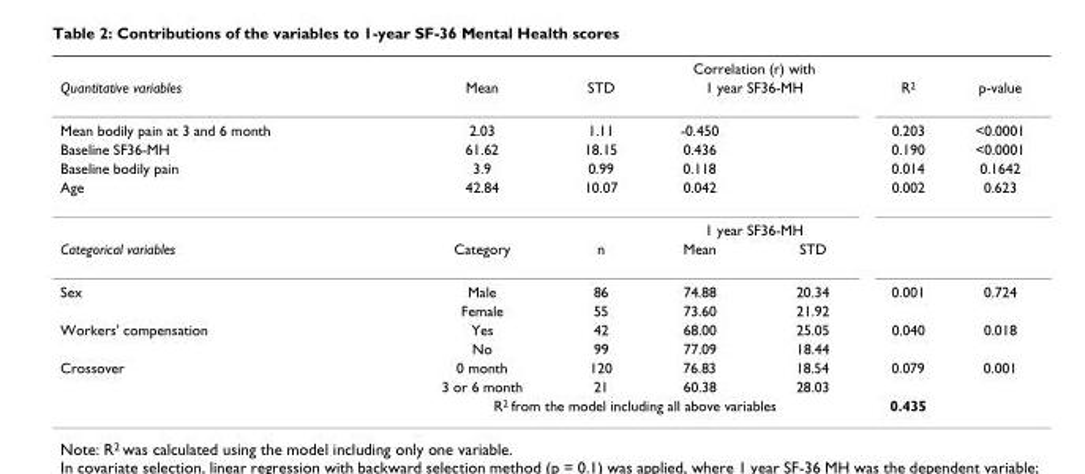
<table><thead><tr><td rowspan="3">Quantitative variables Mean bodily pain at 3 and 6 month</td><td rowspan="3">Mean 2.03</td><td rowspan="3">STD 1.11</td><td rowspan="2" colspan="2">Correlation (r) with 1 year SF36-MH</td><td rowspan="3">R<sup>2</sup> 0.203</td><td rowspan="3">p-value &lt;0.0001</td></tr><tr></tr><tr><td>-0.450</td><td></td></tr></thead><tbody><tr><td>Baseline SF36-MH</td><td>61.62</td><td>18.15</td><td>0.436</td><td></td><td>0.190</td><td>&lt;0.0001</td></tr><tr><td>Baseline bodily pain</td><td>3.9</td><td>0.99</td><td>0.118</td><td></td><td>0.014</td><td>0.1642</td></tr><tr><td rowspan="2">Age</td><td>42.84</td><td>10.07</td><td>0.042</td><td></td><td>0.002</td><td>0.623</td></tr><tr><td></td><td></td><td colspan="2">1 year SF36-MH</td><td></td><td></td></tr><tr><td>Categorical variables</td><td>Category</td><td>n</td><td>Mean</td><td>STD</td><td></td><td></td></tr><tr><td rowspan="2">Sex</td><td>Male</td><td>86</td><td>74.88</td><td>20.34</td><td>0.001</td><td>0.724</td></tr><tr><td>Female</td><td>55</td><td>73.60</td><td>21.92</td><td></td><td></td></tr><tr><td rowspan="2">Workers&#x27; compensation</td><td>Yes</td><td>42</td><td>68.00</td><td>25.05</td><td>0.040</td><td>0.018</td></tr><tr><td>No</td><td>99</td><td>77.09</td><td>18.44</td><td></td><td></td></tr><tr><td rowspan="3">Crossover</td><td>0 month</td><td>120</td><td>76.83</td><td>18.54</td><td>0.079</td><td>0.001</td></tr><tr><td>3 or 6 month</td><td>21</td><td>60.38</td><td>28.03</td><td></td><td></td></tr><tr><td colspan="4">R<sup>2</sup> from the model including all above variables</td><td>0.435</td><td></td></tr></tbody></table>